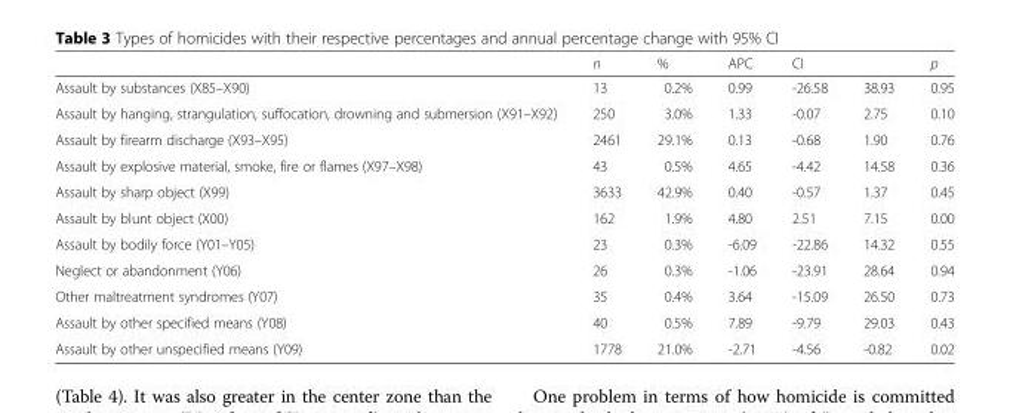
<table><thead><tr><td rowspan="2">Assault by substances (X85–X90)</td><td rowspan="2">n 13</td><td rowspan="2">% 0.2%</td><td rowspan="2">APC 0.99</td><td colspan="2">CI</td><td rowspan="2">p 0.95</td></tr><tr><td>-26.58</td><td>38.93</td></tr></thead><tbody><tr><td>Assault by hanging, strangulation, suffocation, drowning and submersion (X91–X92)</td><td>250</td><td>3.0%</td><td>1.33</td><td>-0.07</td><td>2.75</td><td>0.10</td></tr><tr><td>Assault by firearm discharge (X93–X95)</td><td>2461</td><td>29.1%</td><td>0.13</td><td>-0.68</td><td>1.90</td><td>0.76</td></tr><tr><td>Assault by explosive material, smoke, fire or flames (X97–X98)</td><td>43</td><td>0.5%</td><td>4.65</td><td>-4.42</td><td>14.58</td><td>0.36</td></tr><tr><td>Assault by sharp object (X99)</td><td>3633</td><td>42.9%</td><td>0.40</td><td>-0.57</td><td>1.37</td><td>0.45</td></tr><tr><td>Assault by blunt object (X00)</td><td>162</td><td>1.9%</td><td>4.80</td><td>2.51</td><td>7.15</td><td>0.00</td></tr><tr><td>Assault by bodily force (Y01–Y05)</td><td>23</td><td>0.3%</td><td>-6.09</td><td>-22.86</td><td>14.32</td><td>0.55</td></tr><tr><td>Neglect or abandonment (Y06)</td><td>26</td><td>0.3%</td><td>-1.06</td><td>-23.91</td><td>28.64</td><td>0.94</td></tr><tr><td>Other maltreatment syndromes (Y07)</td><td>35</td><td>0.4%</td><td>3.64</td><td>-15.09</td><td>26.50</td><td>0.73</td></tr><tr><td>Assault by other specified means (Y08)</td><td>40</td><td>0.5%</td><td>7.89</td><td>-9.79</td><td>29.03</td><td>0.43</td></tr><tr><td>Assault by other unspecified means (Y09)</td><td>1778</td><td>21.0%</td><td>-2.71</td><td>-4.56</td><td>-0.82</td><td>0.02</td></tr></tbody></table>